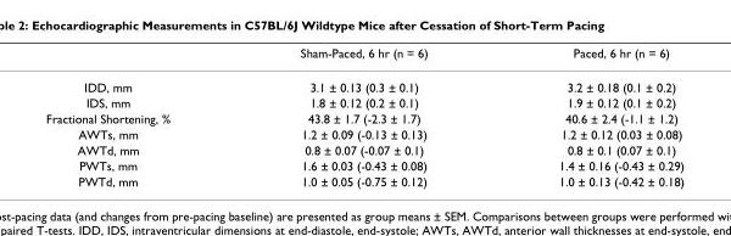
<table><thead><tr><td></td><td>Sham-Paced, 6 hr (n = 6)</td><td>Paced, 6 hr (n = 6)</td></tr></thead><tbody><tr><td>IDD, mm</td><td>3.1 ± 0.13 (0.3 ± 0.1)</td><td>3.2 ± 0.18 (0.1 ± 0.2)</td></tr><tr><td>IDS, mm</td><td>1.8 ± 0.12 (0.2 ± 0.1)</td><td>1.9 ± 0.12 (0.1 ± 0.2)</td></tr><tr><td>Fractional Shortening, %</td><td>43.8 ± 1.7 (-2.3 ± 1.7)</td><td>40.6 ± 2.4 (-1.1 ± 1.2)</td></tr><tr><td>AWTs, mm</td><td>1.2 ± 0.09 (-0.13 ± 0.13)</td><td>1.2 ± 0.12 (0.03 ± 0.08)</td></tr><tr><td>AWTd, mm</td><td>0.8 ± 0.07 (-0.07 ± 0.1)</td><td>0.8 ± 0.1 (0.07 ± 0.1)</td></tr><tr><td>PWTs, mm</td><td>1.6 ± 0.03 (-0.43 ± 0.08)</td><td>1.4 ± 0.16 (-0.43 ± 0.29)</td></tr><tr><td>PWTd, mm</td><td>1.0 ± 0.05 (-0.75 ± 0.12)</td><td>1.0 ± 0.13 (-0.42 ± 0.18)</td></tr></tbody></table>